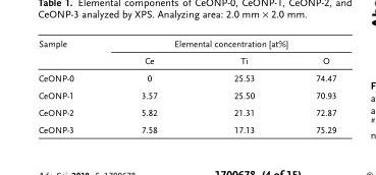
<table><thead><tr><td rowspan="2">Sample</td><td colspan="3">Elemental concentration [at%]</td></tr><tr><td>Ce</td><td>Ti</td><td>O</td></tr></thead><tbody><tr><td>CeONP-0</td><td>0</td><td>25.53</td><td>74.47</td></tr><tr><td>CeONP-1</td><td>3.57</td><td>25.50</td><td>70.93</td></tr><tr><td>CeONP-2</td><td>5.82</td><td>21.31</td><td>72.87</td></tr><tr><td>CeONP-3</td><td>7.58</td><td>17.13</td><td>75.29</td></tr></tbody></table>